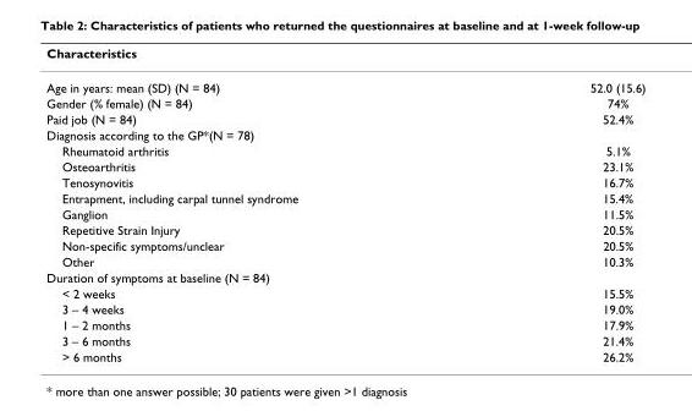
<table><thead><tr><td>Characteristics</td><td></td></tr></thead><tbody><tr><td>Age in years: mean (SD) (N = 84)</td><td>52.0 (15.6)</td></tr><tr><td>Gender (% female) (N = 84)</td><td>74%</td></tr><tr><td>Paid job (N = 84)</td><td>52.4%</td></tr><tr><td colspan="2">Diagnosis according to the GP*(N = 78)</td></tr><tr><td>Rheumatoid arthritis</td><td>5.1%</td></tr><tr><td>Osteoarthritis</td><td>23.1%</td></tr><tr><td>Tenosynovitis</td><td>16.7%</td></tr><tr><td>Entrapment, including carpal tunnel syndrome</td><td>15.4%</td></tr><tr><td>Ganglion</td><td>11.5%</td></tr><tr><td>Repetitive Strain Injury</td><td>20.5%</td></tr><tr><td>Non-specific symptoms/unclear</td><td>20.5%</td></tr><tr><td>Other</td><td>10.3%</td></tr><tr><td colspan="2">Duration of symptoms at baseline (N = 84)</td></tr><tr><td>&lt; 2 weeks</td><td>15.5%</td></tr><tr><td>3 – 4 weeks</td><td>19.0%</td></tr><tr><td>1 – 2 months</td><td>17.9%</td></tr><tr><td>3 – 6 months</td><td>21.4%</td></tr><tr><td>&gt; 6 months</td><td>26.2%</td></tr></tbody></table>